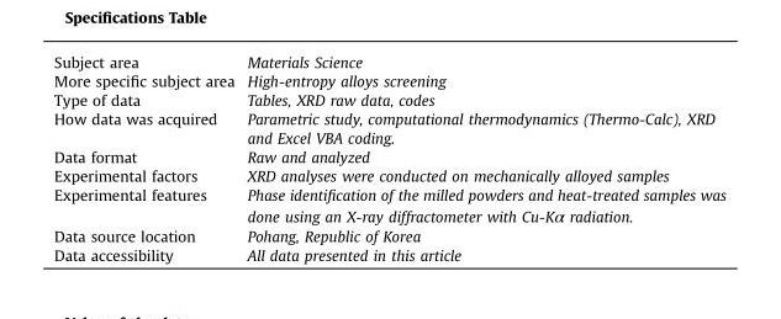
<table><thead><tr><td>Subject area</td><td>Materials Science</td></tr></thead><tbody><tr><td>More specific subject area</td><td>High-entropy alloys screening</td></tr><tr><td>Type of data</td><td>Tables, XRD raw data, codes</td></tr><tr><td>How data was acquired</td><td>Parametric study, computational thermodynamics (Thermo-Calc), XRD and Excel VBA coding.</td></tr><tr><td>Data format</td><td>Raw and analyzed</td></tr><tr><td>Experimental factors</td><td>XRD analyses were conducted on mechanically alloyed samples</td></tr><tr><td>Experimental features</td><td>Phase identification of the milled powders and heat-treated samples was done using an X-ray diffractometer with Cu-Kα radiation.</td></tr><tr><td>Data source location</td><td>Pohang, Republic of Korea</td></tr><tr><td>Data accessibility</td><td>All data presented in this article</td></tr></tbody></table>